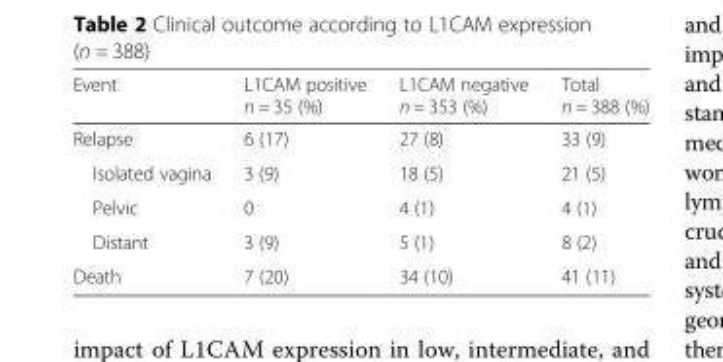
<table><thead><tr><td>Event</td><td>L1CAM positive n = 35 (%)</td><td>L1CAM negative n = 353 (%)</td><td>Total n = 388 (%)</td></tr></thead><tbody><tr><td>Relapse</td><td>6 (17)</td><td>27 (8)</td><td>33 (9)</td></tr><tr><td>Isolated vagina</td><td>3 (9)</td><td>18 (5)</td><td>21 (5)</td></tr><tr><td>Pelvic</td><td>0</td><td>4 (1)</td><td>4 (1)</td></tr><tr><td>Distant</td><td>3 (9)</td><td>5 (1)</td><td>8 (2)</td></tr><tr><td>Death</td><td>7 (20)</td><td>34 (10)</td><td>41 (11)</td></tr></tbody></table>